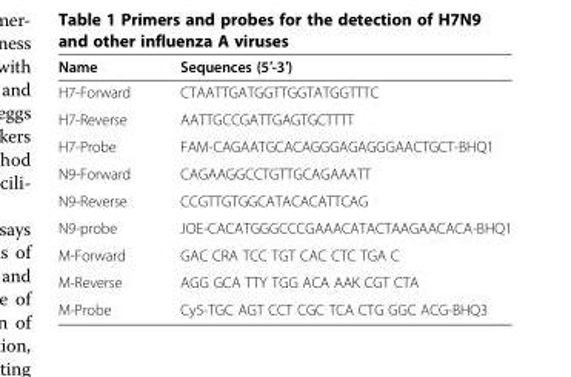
<table><thead><tr><td>Name</td><td>Sequences (5′-3′)</td></tr></thead><tbody><tr><td>H7-Forward</td><td>CTAATTGATGGTTGGTATGGTTTC</td></tr><tr><td>H7-Reverse</td><td>AATTGCCGATTGAGTGCTTTT</td></tr><tr><td>H7-Probe</td><td>FAM-CAGAATGCACAGGGAGAGGGAACTGCT-BHQ1</td></tr><tr><td>N9-Forward</td><td>CAGAAGGCCTGTTGCAGAAATT</td></tr><tr><td>N9-Reverse</td><td>CCGTTGTGGCATACACATTCAG</td></tr><tr><td>N9-probe</td><td>JOE-CACATGGGCCCGAAACATACTAAGAACACA-BHQ1</td></tr><tr><td>M-Forward</td><td>GAC CRA TCC TGT CAC CTC TGA C</td></tr><tr><td>M-Reverse</td><td>AGG GCA TTY TGG ACA AAK CGT CTA</td></tr><tr><td>M-Probe</td><td>Cy5-TGC AGT CCT CGC TCA CTG GGC ACG-BHQ3</td></tr></tbody></table>